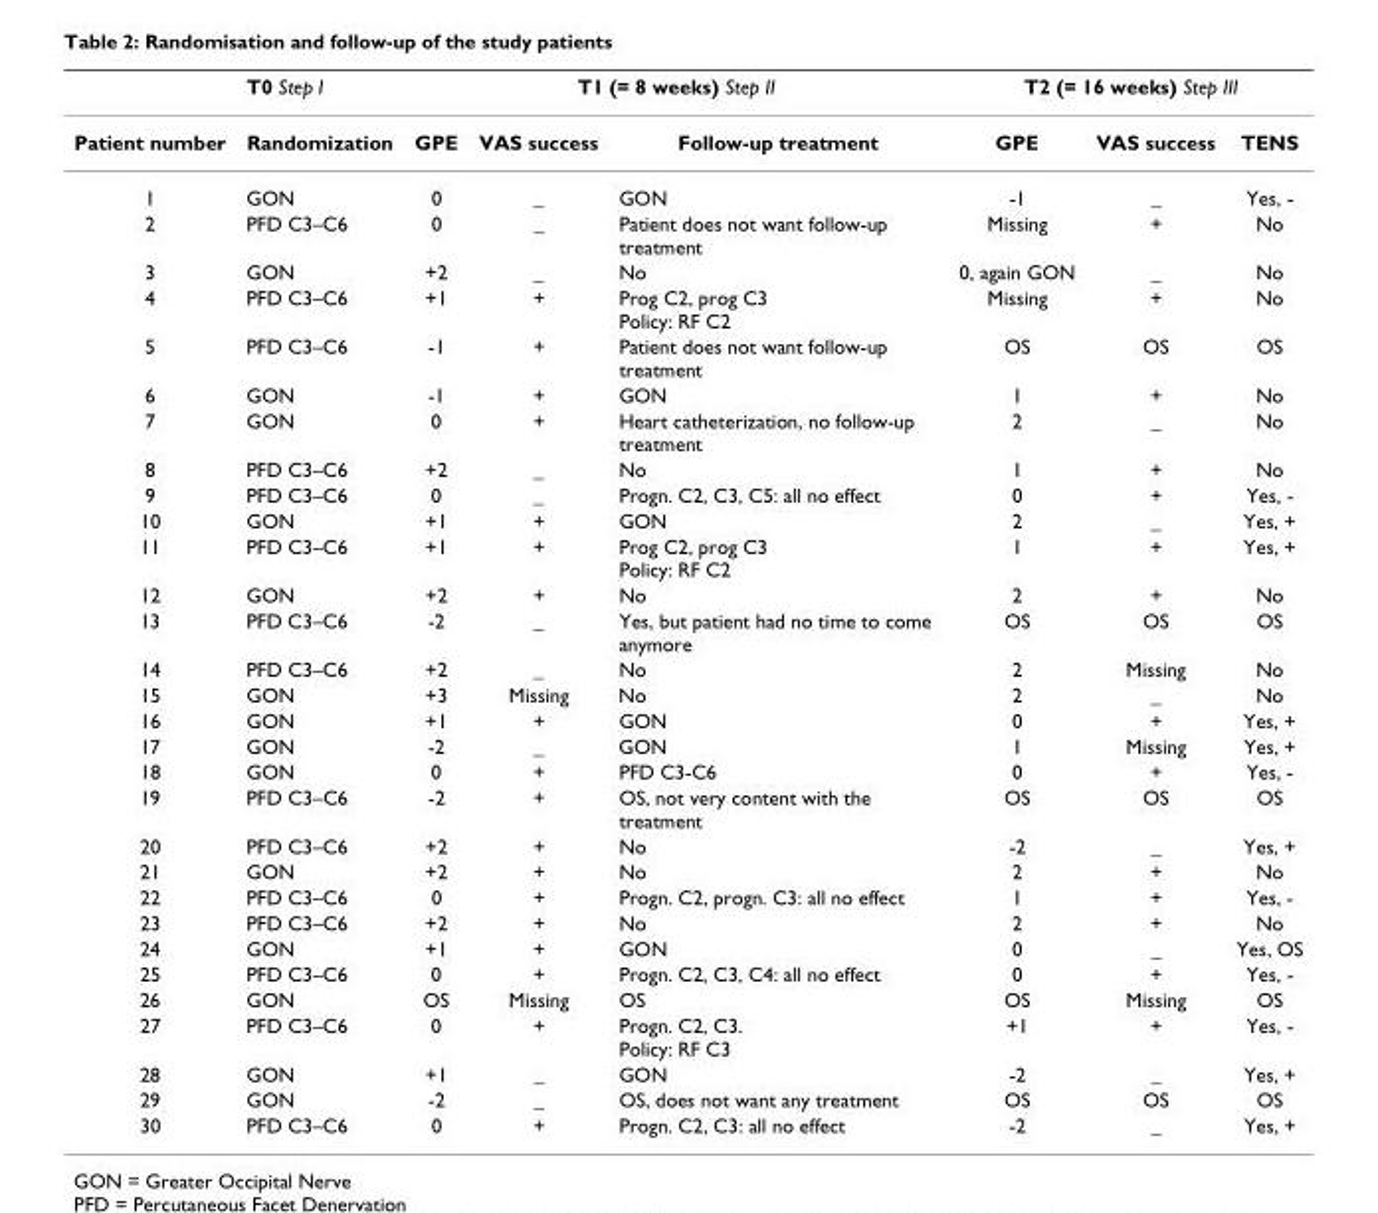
<table><thead><tr><td rowspan="2">Patient number</td><td rowspan="2">T0 Step I Randomization</td><td colspan="3">T1 (= 8 weeks) Step II</td><td colspan="3">T2 (= 16 weeks) Step III</td></tr><tr><td>GPE</td><td>VAS success</td><td>Follow-up treatment</td><td>GPE</td><td>VAS success</td><td>TENS</td></tr></thead><tbody><tr><td>1</td><td>GON</td><td>0</td><td>_</td><td>GON</td><td>-1</td><td>_</td><td>Yes, -</td></tr><tr><td>2</td><td>PFD C3–C6</td><td>0</td><td>_</td><td>Patient does not want follow-up treatment</td><td>Missing</td><td>+</td><td>No</td></tr><tr><td>3</td><td>GON</td><td>+2</td><td>_</td><td>No</td><td>0, again GON</td><td>_</td><td>No</td></tr><tr><td>4</td><td>PFD C3–C6</td><td>+1</td><td>+</td><td>Prog C2, prog C3 Policy: RF C2</td><td>Missing</td><td>+</td><td>No</td></tr><tr><td>5</td><td>PFD C3–C6</td><td>-1</td><td>+</td><td>Patient does not want follow-up treatment</td><td>OS</td><td>OS</td><td>OS</td></tr><tr><td>6</td><td>GON</td><td>-1</td><td>+</td><td>GON</td><td>1</td><td>+</td><td>No</td></tr><tr><td>7</td><td>GON</td><td>0</td><td>+</td><td>Heart catheterization, no follow-up treatment</td><td>2</td><td>_</td><td>No</td></tr><tr><td>8</td><td>PFD C3–C6</td><td>+2</td><td>_</td><td>No</td><td>1</td><td>+</td><td>No</td></tr><tr><td>9</td><td>PFD C3–C6</td><td>0</td><td>_</td><td>Progn. C2, C3, C5: all no effect</td><td>0</td><td>+</td><td>Yes, -</td></tr><tr><td>10</td><td>GON</td><td>+1</td><td>+</td><td>GON</td><td>2</td><td>_</td><td>Yes, +</td></tr><tr><td>11</td><td>PFD C3–C6</td><td>+1</td><td>+</td><td>Prog C2, prog C3 Policy: RF C2</td><td>1</td><td>+</td><td>Yes, +</td></tr><tr><td>12</td><td>GON</td><td>+2</td><td>+</td><td>No</td><td>2</td><td>+</td><td>No</td></tr><tr><td>13</td><td>PFD C3–C6</td><td>-2</td><td>_</td><td>Yes, but patient had no time to come anymore</td><td>OS</td><td>OS</td><td>OS</td></tr><tr><td>14</td><td>PFD C3–C6</td><td>+2</td><td>_</td><td>No</td><td>2</td><td>Missing</td><td>No</td></tr><tr><td>15</td><td>GON</td><td>+3</td><td>Missing</td><td>No</td><td>2</td><td>_</td><td>No</td></tr><tr><td>16</td><td>GON</td><td>+1</td><td>+</td><td>GON</td><td>0</td><td>+</td><td>Yes, +</td></tr><tr><td>17</td><td>GON</td><td>-2</td><td>_</td><td>GON</td><td>1</td><td>Missing</td><td>Yes, +</td></tr><tr><td>18</td><td>GON</td><td>0</td><td>+</td><td>PFD C3-C6</td><td>0</td><td>+</td><td>Yes, -</td></tr><tr><td>19</td><td>PFD C3–C6</td><td>-2</td><td>+</td><td>OS, not very content with the treatment</td><td>OS</td><td>OS</td><td>OS</td></tr><tr><td>20</td><td>PFD C3–C6</td><td>+2</td><td>+</td><td>No</td><td>-2</td><td>_</td><td>Yes, +</td></tr><tr><td>21</td><td>GON</td><td>+2</td><td>+</td><td>No</td><td>2</td><td>+</td><td>No</td></tr><tr><td>22</td><td>PFD C3–C6</td><td>0</td><td>+</td><td>Progn. C2, progn. C3: all no effect</td><td>1</td><td>+</td><td>Yes, -</td></tr><tr><td>23</td><td>PFD C3–C6</td><td>+2</td><td>+</td><td>No</td><td>2</td><td>+</td><td>No</td></tr><tr><td>24</td><td>GON</td><td>+1</td><td>+</td><td>GON</td><td>0</td><td>_</td><td>Yes, OS</td></tr><tr><td>25</td><td>PFD C3–C6</td><td>0</td><td>+</td><td>Progn. C2, C3, C4: all no effect</td><td>0</td><td>+</td><td>Yes, -</td></tr><tr><td>26</td><td>GON</td><td>OS</td><td>Missing</td><td>OS</td><td>OS</td><td>Missing</td><td>OS</td></tr><tr><td>27</td><td>PFD C3–C6</td><td>0</td><td>+</td><td>Progn. C2, C3. Policy: RF C3</td><td>+1</td><td>+</td><td>Yes, -</td></tr><tr><td>28</td><td>GON</td><td>+1</td><td>_</td><td>GON</td><td>-2</td><td>_</td><td>Yes, +</td></tr><tr><td>29</td><td>GON</td><td>-2</td><td>_</td><td>OS, does not want any treatment</td><td>OS</td><td>OS</td><td>OS</td></tr><tr><td>30</td><td>PFD C3–C6</td><td>0</td><td>+</td><td>Progn. C2, C3: all no effect</td><td>-2</td><td>_</td><td>Yes, +</td></tr></tbody></table>